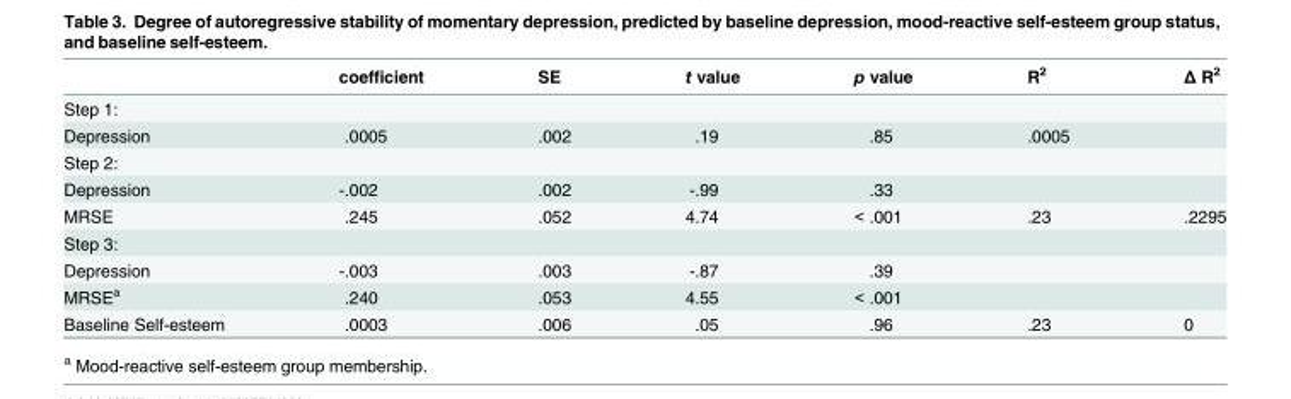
<table><thead><tr><td></td><td>coefficient</td><td>SE</td><td>t value</td><td>p value</td><td>R<sup>2</sup></td><td>Δ R<sup>2</sup></td></tr></thead><tbody><tr><td colspan="7">Step 1:</td></tr><tr><td>Depression</td><td>.0005</td><td>.002</td><td>.19</td><td>.85</td><td>.0005</td><td></td></tr><tr><td colspan="7">Step 2:</td></tr><tr><td>Depression</td><td>-.002</td><td>.002</td><td>-.99</td><td>.33</td><td></td><td></td></tr><tr><td>MRSE</td><td>.245</td><td>.052</td><td>4.74</td><td>&lt; .001</td><td>.23</td><td>.2295</td></tr><tr><td colspan="7">Step 3:</td></tr><tr><td>Depression</td><td>-.003</td><td>.003</td><td>-.87</td><td>.39</td><td></td><td></td></tr><tr><td>MRSE<sup>a</sup></td><td>.240</td><td>.053</td><td>4.55</td><td>&lt; .001</td><td></td><td></td></tr><tr><td>Baseline Self-esteem</td><td>.0003</td><td>.006</td><td>.05</td><td>.96</td><td>.23</td><td>0</td></tr></tbody></table>